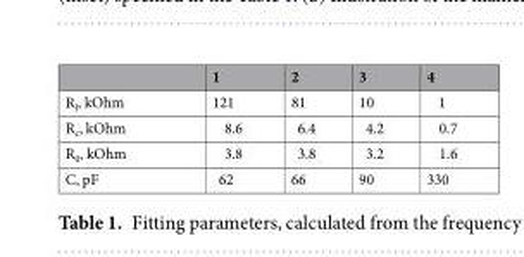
<table><thead><tr><td></td><td>1</td><td>2</td><td>3</td><td>4</td></tr></thead><tbody><tr><td>R<sub>l</sub>, kOhm</td><td>121</td><td>81</td><td>10</td><td>1</td></tr><tr><td>R<sub>с</sub>, kOhm</td><td>8.6</td><td>6.4</td><td>4.2</td><td>0.7</td></tr><tr><td>R<sub>0</sub>, kOhm</td><td>3.8</td><td>3.8</td><td>3.2</td><td>1.6</td></tr><tr><td>C, pF</td><td>62</td><td>66</td><td>90</td><td>330</td></tr></tbody></table>